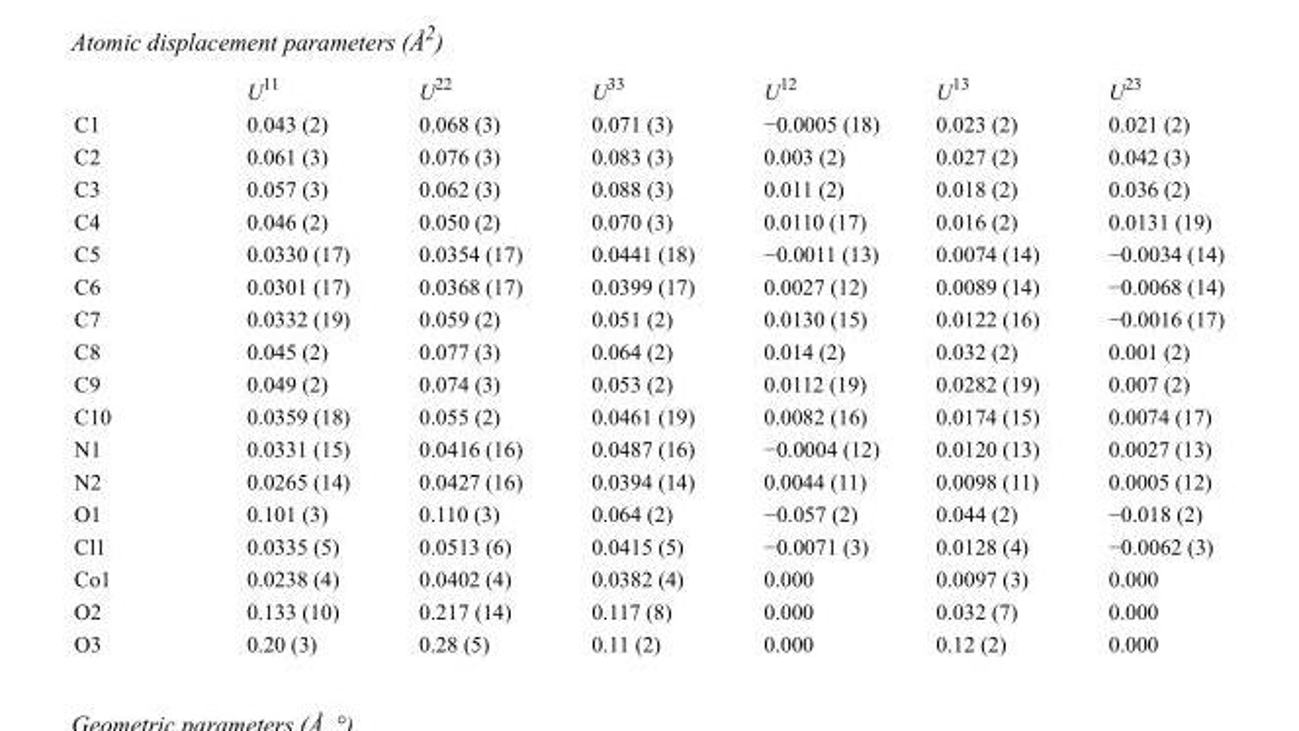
<table><thead><tr><td></td><td>U<sup>11</sup></td><td>U<sup>22</sup></td><td>U<sup>33</sup></td><td>U<sup>12</sup></td><td>U<sup>13</sup></td><td>U<sup>23</sup></td></tr></thead><tbody><tr><td>C1</td><td>0.043 (2)</td><td>0.068 (3)</td><td>0.071 (3)</td><td>−0.0005 (18)</td><td>0.023 (2)</td><td>0.021 (2)</td></tr><tr><td>C2</td><td>0.061 (3)</td><td>0.076 (3)</td><td>0.083 (3)</td><td>0.003 (2)</td><td>0.027 (2)</td><td>0.042 (3)</td></tr><tr><td>C3</td><td>0.057 (3)</td><td>0.062 (3)</td><td>0.088 (3)</td><td>0.011 (2)</td><td>0.018 (2)</td><td>0.036 (2)</td></tr><tr><td>C4</td><td>0.046 (2)</td><td>0.050 (2)</td><td>0.070 (3)</td><td>0.0110 (17)</td><td>0.016 (2)</td><td>0.0131 (19)</td></tr><tr><td>C5</td><td>0.0330 (17)</td><td>0.0354 (17)</td><td>0.0441 (18)</td><td>−0.0011 (13)</td><td>0.0074 (14)</td><td>−0.0034 (14)</td></tr><tr><td>C6</td><td>0.0301 (17)</td><td>0.0368 (17)</td><td>0.0399 (17)</td><td>0.0027 (12)</td><td>0.0089 (14)</td><td>−0.0068 (14)</td></tr><tr><td>C7</td><td>0.0332 (19)</td><td>0.059 (2)</td><td>0.051 (2)</td><td>0.0130 (15)</td><td>0.0122 (16)</td><td>−0.0016 (17)</td></tr><tr><td>C8</td><td>0.045 (2)</td><td>0.077 (3)</td><td>0.064 (2)</td><td>0.014 (2)</td><td>0.032 (2)</td><td>0.001 (2)</td></tr><tr><td>C9</td><td>0.049 (2)</td><td>0.074 (3)</td><td>0.053 (2)</td><td>0.0112 (19)</td><td>0.0282 (19)</td><td>0.007 (2)</td></tr><tr><td>C10</td><td>0.0359 (18)</td><td>0.055 (2)</td><td>0.0461 (19)</td><td>0.0082 (16)</td><td>0.0174 (15)</td><td>0.0074 (17)</td></tr><tr><td>N1</td><td>0.0331 (15)</td><td>0.0416 (16)</td><td>0.0487 (16)</td><td>−0.0004 (12)</td><td>0.0120 (13)</td><td>0.0027 (13)</td></tr><tr><td>N2</td><td>0.0265 (14)</td><td>0.0427 (16)</td><td>0.0394 (14)</td><td>0.0044 (11)</td><td>0.0098 (11)</td><td>0.0005 (12)</td></tr><tr><td>O1</td><td>0.101 (3)</td><td>0.110 (3)</td><td>0.064 (2)</td><td>−0.057 (2)</td><td>0.044 (2)</td><td>−0.018 (2)</td></tr><tr><td>Cl1</td><td>0.0335 (5)</td><td>0.0513 (6)</td><td>0.0415 (5)</td><td>−0.0071 (3)</td><td>0.0128 (4)</td><td>−0.0062 (3)</td></tr><tr><td>Co1</td><td>0.0238 (4)</td><td>0.0402 (4)</td><td>0.0382 (4)</td><td>0.000</td><td>0.0097 (3)</td><td>0.000</td></tr><tr><td>O2</td><td>0.133 (10)</td><td>0.217 (14)</td><td>0.117 (8)</td><td>0.000</td><td>0.032 (7)</td><td>0.000</td></tr><tr><td>O3</td><td>0.20 (3)</td><td>0.28 (5)</td><td>0.11 (2)</td><td>0.000</td><td>0.12 (2)</td><td>0.000</td></tr></tbody></table>